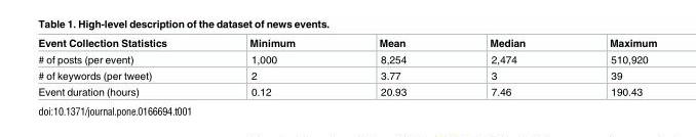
<table><thead><tr><td>Event Collection Statistics</td><td>Minimum</td><td>Mean</td><td>Median</td><td>Maximum</td></tr></thead><tbody><tr><td># of posts (per event)</td><td>1,000</td><td>8,254</td><td>2,474</td><td>510,920</td></tr><tr><td># of keywords (per tweet)</td><td>2</td><td>3.77</td><td>3</td><td>39</td></tr><tr><td>Event duration (hours)</td><td>0.12</td><td>20.93</td><td>7.46</td><td>190.43</td></tr></tbody></table>